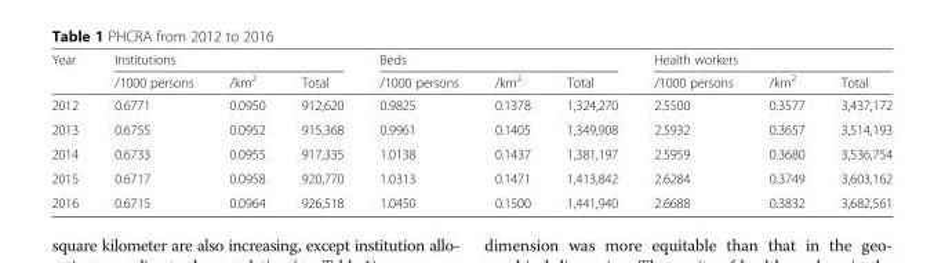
<table><thead><tr><td rowspan="2">Year</td><td colspan="3">Institutions</td><td colspan="3">Beds</td><td colspan="3">Health workers</td></tr><tr><td>/1000 persons</td><td>/km<sup>2</sup></td><td>Total</td><td>/1000 persons</td><td>/km<sup>2</sup></td><td>Total</td><td>/1000 persons</td><td>/km<sup>2</sup></td><td>Total</td></tr></thead><tbody><tr><td>2012</td><td>0.6771</td><td>0.0950</td><td>912,620</td><td>0.9825</td><td>0.1378</td><td>1,324,270</td><td>2.5500</td><td>0.3577</td><td>3,437,172</td></tr><tr><td>2013</td><td>0.6755</td><td>0.0952</td><td>915,368</td><td>0.9961</td><td>0.1405</td><td>1,349,908</td><td>2.5932</td><td>0.3657</td><td>3,514,193</td></tr><tr><td>2014</td><td>0.6733</td><td>0.0955</td><td>917,335</td><td>1.0138</td><td>0.1437</td><td>1,381,197</td><td>2.5959</td><td>0.3680</td><td>3,536,754</td></tr><tr><td>2015</td><td>0.6717</td><td>0.0958</td><td>920,770</td><td>1.0313</td><td>0.1471</td><td>1,413,842</td><td>2.6284</td><td>0.3749</td><td>3,603,162</td></tr><tr><td>2016</td><td>0.6715</td><td>0.0964</td><td>926,518</td><td>1.0450</td><td>0.1500</td><td>1,441,940</td><td>2.6688</td><td>0.3832</td><td>3,682,561</td></tr></tbody></table>